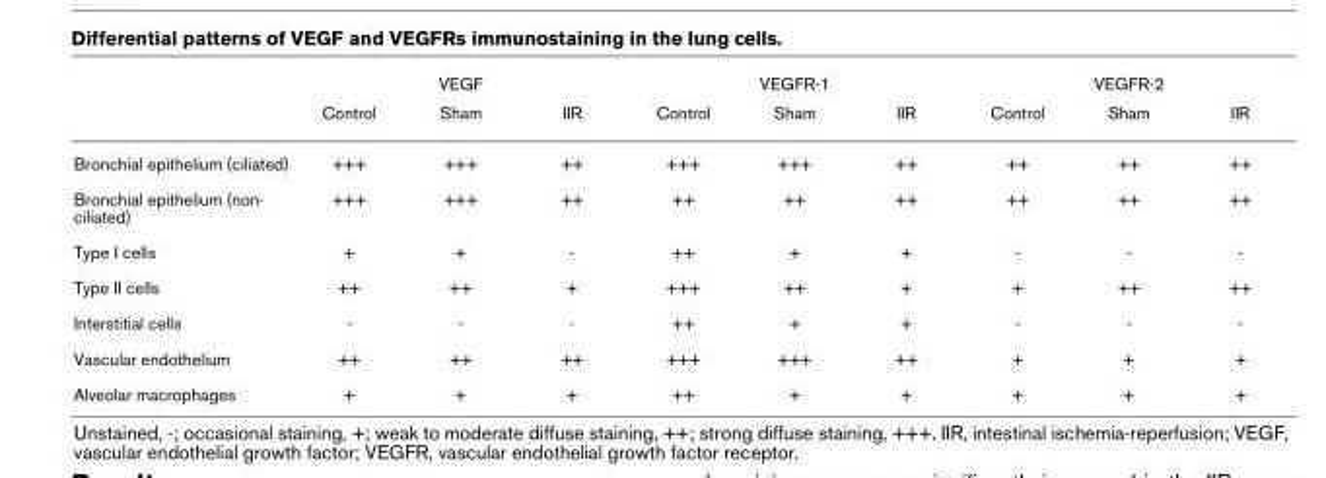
<table><thead><tr><td rowspan="2"></td><td colspan="3">VEGF</td><td colspan="3">VEGFR-1</td><td colspan="3">VEGFR-2</td></tr><tr><td>Control</td><td>Sham</td><td>IIR</td><td>Control</td><td>Sham</td><td>IIR</td><td>Control</td><td>Sham</td><td>IIR</td></tr></thead><tbody><tr><td>Bronchial epithelium (ciliated)</td><td>+++</td><td>+++</td><td>++</td><td>+++</td><td>+++</td><td>++</td><td>++</td><td>++</td><td>++</td></tr><tr><td>Bronchial epithelium (non- ciliated)</td><td>+++</td><td>+++</td><td>++</td><td>++</td><td>++</td><td>++</td><td>++</td><td>++</td><td>++</td></tr><tr><td>Type I cells</td><td>+</td><td>+</td><td>-</td><td>++</td><td>+</td><td>+</td><td>-</td><td>-</td><td>-</td></tr><tr><td>Type II cells</td><td>++</td><td>++</td><td>+</td><td>+++</td><td>++</td><td>+</td><td>+</td><td>++</td><td>++</td></tr><tr><td>Interstitial cells</td><td>-</td><td>-</td><td>-</td><td>++</td><td>+</td><td>+</td><td>-</td><td>-</td><td>-</td></tr><tr><td>Vascular endothelium</td><td>++</td><td>++</td><td>++</td><td>+++</td><td>+++</td><td>++</td><td>+</td><td>+</td><td>+</td></tr><tr><td>Alveolar macrophages</td><td>+</td><td>+</td><td>+</td><td>++</td><td>+</td><td>+</td><td>+</td><td>+</td><td>+</td></tr></tbody></table>